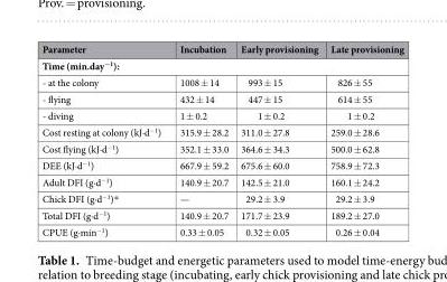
<table><thead><tr><td>Parameter</td><td>Incubation</td><td>Early provisioning</td><td>Late provisioning</td></tr></thead><tbody><tr><td colspan="4">Time (min.day<sup>−1</sup>):</td></tr><tr><td>- at the colony</td><td>1008 ± 14</td><td>993 ± 15</td><td>826 ± 55</td></tr><tr><td>- flying</td><td>432 ± 14</td><td>447 ± 15</td><td>614 ± 55</td></tr><tr><td>- diving</td><td>1 ± 0.2</td><td>1 ± 0.2</td><td>1 ± 0.2</td></tr><tr><td>Cost resting at colony (kJ·d<sup>−1</sup>)</td><td>315.9 ± 28.2</td><td>311.0 ± 27.8</td><td>259.0 ± 28.6</td></tr><tr><td>Cost flying (kJ·d<sup>−1</sup>)</td><td>352.1 ± 33.0</td><td>364.6 ± 34.3</td><td>500.0 ± 62.8</td></tr><tr><td>DEE (kJ·d<sup>−1</sup>)</td><td>667.9 ± 59.2</td><td>675.6 ± 60.0</td><td>758.9 ± 72.3</td></tr><tr><td>Adult DFI (g·d<sup>−1</sup>)</td><td>140.9 ± 20.7</td><td>142.5 ± 21.0</td><td>160.1 ± 24.2</td></tr><tr><td>Chick DFI (g·d<sup>−1</sup>)*</td><td>—</td><td>29.2 ± 3.9</td><td>29.2 ± 3.9</td></tr><tr><td>Total DFI (g·d<sup>−1</sup>)</td><td>140.9 ± 20.7</td><td>171.7 ± 23.9</td><td>189.2 ± 27.0</td></tr><tr><td>CPUE (g·min<sup>−1</sup>)</td><td>0.33 ± 0.05</td><td>0.32 ± 0.05</td><td>0.26 ± 0.04</td></tr></tbody></table>